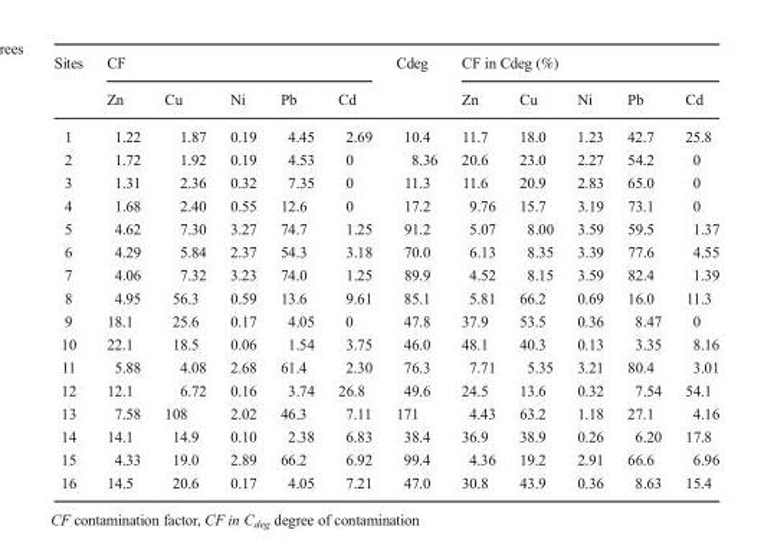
<table><thead><tr><td rowspan="2">Sites</td><td colspan="5">CF</td><td rowspan="2">Cdeg</td><td colspan="5">CF in Cdeg (%)</td></tr><tr><td>Zn</td><td>Cu</td><td>Ni</td><td>Pb</td><td>Cd</td><td>Zn</td><td>Cu</td><td>Ni</td><td>Pb</td><td>Cd</td></tr></thead><tbody><tr><td>1</td><td>1.22</td><td>1.87</td><td>0.19</td><td>4.45</td><td>2.69</td><td>10.4</td><td>11.7</td><td>18.0</td><td>1.23</td><td>42.7</td><td>25.8</td></tr><tr><td>2</td><td>1.72</td><td>1.92</td><td>0.19</td><td>4.53</td><td>0</td><td>8.36</td><td>20.6</td><td>23.0</td><td>2.27</td><td>54.2</td><td>0</td></tr><tr><td>3</td><td>1.31</td><td>2.36</td><td>0.32</td><td>7.35</td><td>0</td><td>11.3</td><td>11.6</td><td>20.9</td><td>2.83</td><td>65.0</td><td>0</td></tr><tr><td>4</td><td>1.68</td><td>2.40</td><td>0.55</td><td>12.6</td><td>0</td><td>17.2</td><td>9.76</td><td>15.7</td><td>3.19</td><td>73.1</td><td>0</td></tr><tr><td>5</td><td>4.62</td><td>7.30</td><td>3.27</td><td>74.7</td><td>1.25</td><td>91.2</td><td>5.07</td><td>8.00</td><td>3.59</td><td>59.5</td><td>1.37</td></tr><tr><td>6</td><td>4.29</td><td>5.84</td><td>2.37</td><td>54.3</td><td>3.18</td><td>70.0</td><td>6.13</td><td>8.35</td><td>3.39</td><td>77.6</td><td>4.55</td></tr><tr><td>7</td><td>4.06</td><td>7.32</td><td>3.23</td><td>74.0</td><td>1.25</td><td>89.9</td><td>4.52</td><td>8.15</td><td>3.59</td><td>82.4</td><td>1.39</td></tr><tr><td>8</td><td>4.95</td><td>56.3</td><td>0.59</td><td>13.6</td><td>9.61</td><td>85.1</td><td>5.81</td><td>66.2</td><td>0.69</td><td>16.0</td><td>11.3</td></tr><tr><td>9</td><td>18.1</td><td>25.6</td><td>0.17</td><td>4.05</td><td>0</td><td>47.8</td><td>37.9</td><td>53.5</td><td>0.36</td><td>8.47</td><td>0</td></tr><tr><td>10</td><td>22.1</td><td>18.5</td><td>0.06</td><td>1.54</td><td>3.75</td><td>46.0</td><td>48.1</td><td>40.3</td><td>0.13</td><td>3.35</td><td>8.16</td></tr><tr><td>11</td><td>5.88</td><td>4.08</td><td>2.68</td><td>61.4</td><td>2.30</td><td>76.3</td><td>7.71</td><td>5.35</td><td>3.21</td><td>80.4</td><td>3.01</td></tr><tr><td>12</td><td>12.1</td><td>6.72</td><td>0.16</td><td>3.74</td><td>26.8</td><td>49.6</td><td>24.5</td><td>13.6</td><td>0.32</td><td>7.54</td><td>54.1</td></tr><tr><td>13</td><td>7.58</td><td>108</td><td>2.02</td><td>46.3</td><td>7.11</td><td>171</td><td>4.43</td><td>63.2</td><td>1.18</td><td>27.1</td><td>4.16</td></tr><tr><td>14</td><td>14.1</td><td>14.9</td><td>0.10</td><td>2.38</td><td>6.83</td><td>38.4</td><td>36.9</td><td>38.9</td><td>0.26</td><td>6.20</td><td>17.8</td></tr><tr><td>15</td><td>4.33</td><td>19.0</td><td>2.89</td><td>66.2</td><td>6.92</td><td>99.4</td><td>4.36</td><td>19.2</td><td>2.91</td><td>66.6</td><td>6.96</td></tr><tr><td>16</td><td>14.5</td><td>20.6</td><td>0.17</td><td>4.05</td><td>7.21</td><td>47.0</td><td>30.8</td><td>43.9</td><td>0.36</td><td>8.63</td><td>15.4</td></tr></tbody></table>